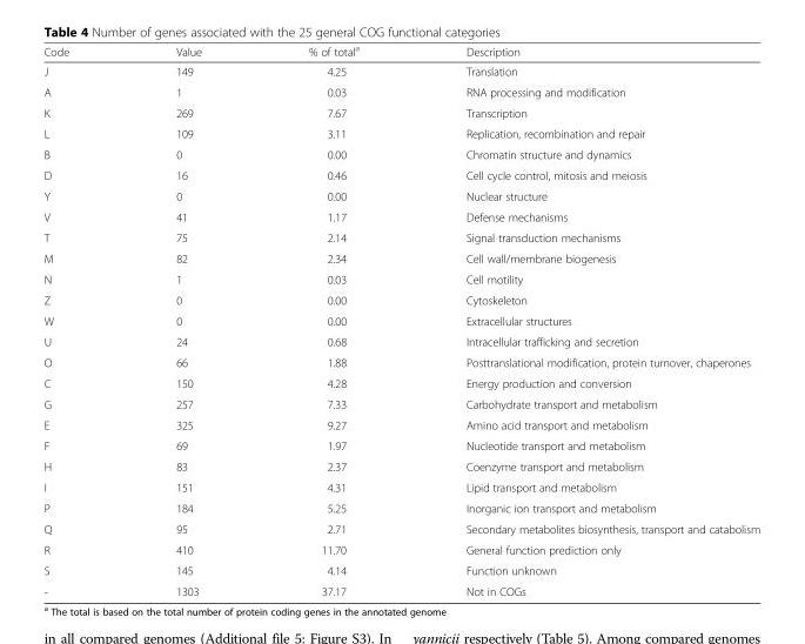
<table><thead><tr><td>Code</td><td>Value</td><td>% of total<sup>a</sup></td><td>Description</td></tr></thead><tbody><tr><td>J</td><td>149</td><td>4.25</td><td>Translation</td></tr><tr><td>A</td><td>1</td><td>0.03</td><td>RNA processing and modification</td></tr><tr><td>K</td><td>269</td><td>7.67</td><td>Transcription</td></tr><tr><td>L</td><td>109</td><td>3.11</td><td>Replication, recombination and repair</td></tr><tr><td>B</td><td>0</td><td>0.00</td><td>Chromatin structure and dynamics</td></tr><tr><td>D</td><td>16</td><td>0.46</td><td>Cell cycle control, mitosis and meiosis</td></tr><tr><td>Y</td><td>0</td><td>0.00</td><td>Nuclear structure</td></tr><tr><td>V</td><td>41</td><td>1.17</td><td>Defense mechanisms</td></tr><tr><td>T</td><td>75</td><td>2.14</td><td>Signal transduction mechanisms</td></tr><tr><td>M</td><td>82</td><td>2.34</td><td>Cell wall/membrane biogenesis</td></tr><tr><td>N</td><td>1</td><td>0.03</td><td>Cell motility</td></tr><tr><td>Z</td><td>0</td><td>0.00</td><td>Cytoskeleton</td></tr><tr><td>W</td><td>0</td><td>0.00</td><td>Extracellular structures</td></tr><tr><td>U</td><td>24</td><td>0.68</td><td>Intracellular trafficking and secretion</td></tr><tr><td>O</td><td>66</td><td>1.88</td><td>Posttranslational modification, protein turnover, chaperones</td></tr><tr><td>C</td><td>150</td><td>4.28</td><td>Energy production and conversion</td></tr><tr><td>G</td><td>257</td><td>7.33</td><td>Carbohydrate transport and metabolism</td></tr><tr><td>E</td><td>325</td><td>9.27</td><td>Amino acid transport and metabolism</td></tr><tr><td>F</td><td>69</td><td>1.97</td><td>Nucleotide transport and metabolism</td></tr><tr><td>H</td><td>83</td><td>2.37</td><td>Coenzyme transport and metabolism</td></tr><tr><td>I</td><td>151</td><td>4.31</td><td>Lipid transport and metabolism</td></tr><tr><td>P</td><td>184</td><td>5.25</td><td>Inorganic ion transport and metabolism</td></tr><tr><td>Q</td><td>95</td><td>2.71</td><td>Secondary metabolites biosynthesis, transport and catabolism</td></tr><tr><td>R</td><td>410</td><td>11.70</td><td>General function prediction only</td></tr><tr><td>S</td><td>145</td><td>4.14</td><td>Function unknown</td></tr><tr><td>-</td><td>1303</td><td>37.17</td><td>Not in COGs</td></tr></tbody></table>